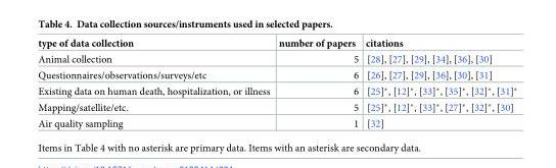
<table><thead><tr><td>type of data collection</td><td>number of papers</td><td>citations</td></tr></thead><tbody><tr><td>Animal collection</td><td>5</td><td>[28], [27], [29], [34], [36], [30]</td></tr><tr><td>Questionnaires/observations/surveys/etc</td><td>6</td><td>[26], [27], [29], [36], [30], [31]</td></tr><tr><td>Existing data on human death, hospitalization, or illness</td><td>6</td><td>[25]*, [12]*, [33]*, [35]*, [32]*, [31]*</td></tr><tr><td>Mapping/satellite/etc.</td><td>5</td><td>[25]*, [12]*, [33]*, [27]*, [32]*, [30]</td></tr><tr><td>Air quality sampling</td><td>1</td><td>[32]</td></tr></tbody></table>